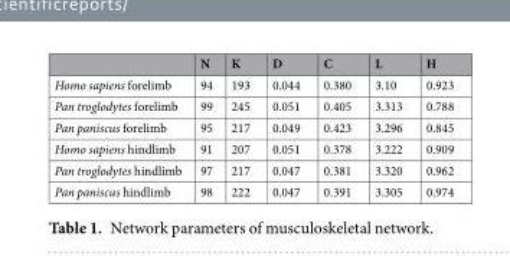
<table><thead><tr><td></td><td>N</td><td>K</td><td>D</td><td>C</td><td>L</td><td>H</td></tr></thead><tbody><tr><td>Homo sapiens forelimb</td><td>94</td><td>193</td><td>0.044</td><td>0.380</td><td>3.10</td><td>0.923</td></tr><tr><td>Pan troglodytes forelimb</td><td>99</td><td>245</td><td>0.051</td><td>0.405</td><td>3.313</td><td>0.788</td></tr><tr><td>Pan paniscus forelimb</td><td>95</td><td>217</td><td>0.049</td><td>0.423</td><td>3.296</td><td>0.845</td></tr><tr><td>Homo sapiens hindlimb</td><td>91</td><td>207</td><td>0.051</td><td>0.378</td><td>3.222</td><td>0.909</td></tr><tr><td>Pan troglodytes hindlimb</td><td>97</td><td>217</td><td>0.047</td><td>0.381</td><td>3.320</td><td>0.962</td></tr><tr><td>Pan paniscus hindlimb</td><td>98</td><td>222</td><td>0.047</td><td>0.391</td><td>3.305</td><td>0.974</td></tr></tbody></table>